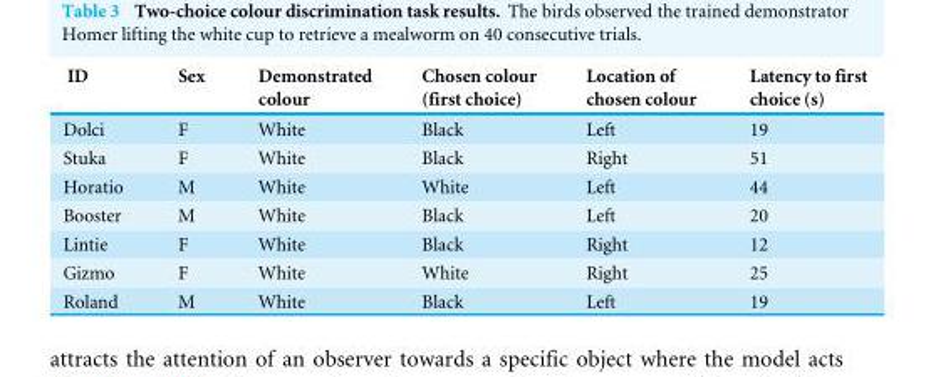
<table><thead><tr><td>ID</td><td>Sex</td><td>Demonstrated colour</td><td>Chosen colour (first choice)</td><td>Location of chosen colour</td><td>Latency to first choice (s)</td></tr></thead><tbody><tr><td>Dolci</td><td>F</td><td>White</td><td>Black</td><td>Left</td><td>19</td></tr><tr><td>Stuka</td><td>F</td><td>White</td><td>Black</td><td>Right</td><td>51</td></tr><tr><td>Horatio</td><td>M</td><td>White</td><td>White</td><td>Left</td><td>44</td></tr><tr><td>Booster</td><td>M</td><td>White</td><td>Black</td><td>Left</td><td>20</td></tr><tr><td>Lintie</td><td>F</td><td>White</td><td>Black</td><td>Right</td><td>12</td></tr><tr><td>Gizmo</td><td>F</td><td>White</td><td>White</td><td>Right</td><td>25</td></tr><tr><td>Roland</td><td>M</td><td>White</td><td>Black</td><td>Left</td><td>19</td></tr></tbody></table>